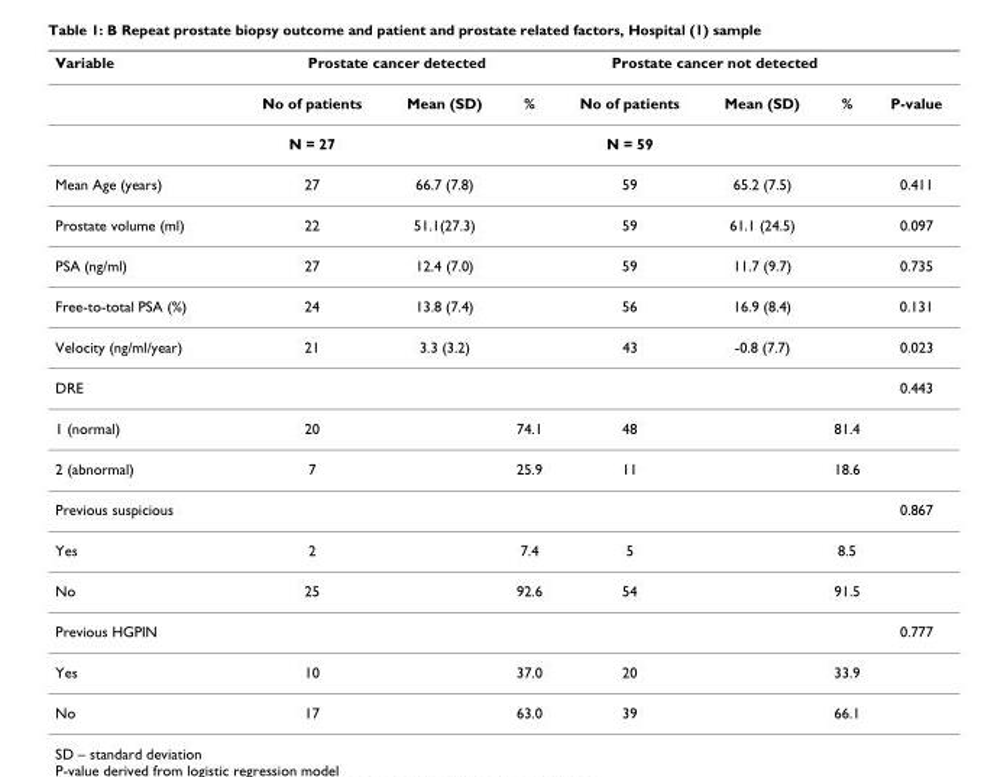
<table><thead><tr><td rowspan="2">Variable</td><td colspan="3">Prostate cancer detected</td><td colspan="3">Prostate cancer not detected</td><td rowspan="2">P-value</td></tr><tr><td>No of patients</td><td>Mean (SD)</td><td>%</td><td>No of patients</td><td>Mean (SD)</td><td>%</td></tr></thead><tbody><tr><td></td><td>N = 27</td><td></td><td></td><td>N = 59</td><td></td><td></td><td></td></tr><tr><td>Mean Age (years)</td><td>27</td><td>66.7 (7.8)</td><td></td><td>59</td><td>65.2 (7.5)</td><td></td><td>0.411</td></tr><tr><td>Prostate volume (ml)</td><td>22</td><td>51.1(27.3)</td><td></td><td>59</td><td>61.1 (24.5)</td><td></td><td>0.097</td></tr><tr><td>PSA (ng/ml)</td><td>27</td><td>12.4 (7.0)</td><td></td><td>59</td><td>11.7 (9.7)</td><td></td><td>0.735</td></tr><tr><td>Free-to-total PSA (%)</td><td>24</td><td>13.8 (7.4)</td><td></td><td>56</td><td>16.9 (8.4)</td><td></td><td>0.131</td></tr><tr><td>Velocity (ng/ml/year)</td><td>21</td><td>3.3 (3.2)</td><td></td><td>43</td><td>-0.8 (7.7)</td><td></td><td>0.023</td></tr><tr><td>DRE</td><td></td><td></td><td></td><td></td><td></td><td></td><td>0.443</td></tr><tr><td>1 (normal)</td><td>20</td><td></td><td>74.1</td><td>48</td><td></td><td>81.4</td><td></td></tr><tr><td>2 (abnormal)</td><td>7</td><td></td><td>25.9</td><td>11</td><td></td><td>18.6</td><td></td></tr><tr><td>Previous suspicious</td><td></td><td></td><td></td><td></td><td></td><td></td><td>0.867</td></tr><tr><td>Yes</td><td>2</td><td></td><td>7.4</td><td>5</td><td></td><td>8.5</td><td></td></tr><tr><td>No</td><td>25</td><td></td><td>92.6</td><td>54</td><td></td><td>91.5</td><td></td></tr><tr><td>Previous HGPIN</td><td></td><td></td><td></td><td></td><td></td><td></td><td>0.777</td></tr><tr><td>Yes</td><td>10</td><td></td><td>37.0</td><td>20</td><td></td><td>33.9</td><td></td></tr><tr><td>No</td><td>17</td><td></td><td>63.0</td><td>39</td><td></td><td>66.1</td><td></td></tr></tbody></table>